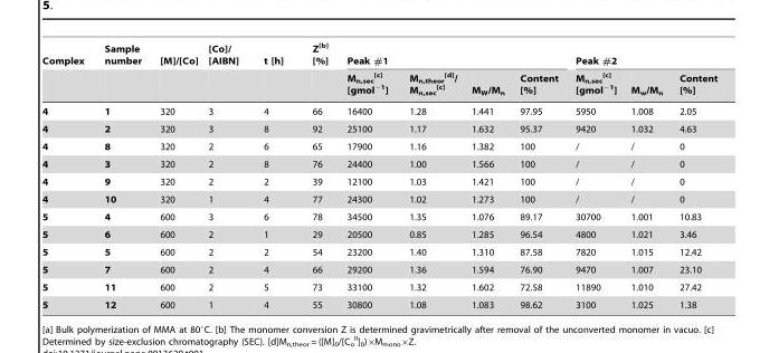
<table><thead><tr><td rowspan="2">Complex</td><td rowspan="2">Sample number</td><td rowspan="2">[M]/[Co]</td><td rowspan="2">[Co]/ [AIBN]</td><td rowspan="2">t [h]</td><td rowspan="2">Z<sup>[b]</sup> [%]</td><td colspan="4">Peak #1</td><td colspan="3">Peak #2</td></tr><tr><td>M<sub>n,sec</sub> <sup>[c]</sup> [gmol<sup>−1</sup>]</td><td>M<sub>n,theor</sub> <sup>[d]</sup>/ M<sub>n,sec</sub> <sup>[c]</sup></td><td>M<sub>W</sub>/M<sub>n</sub></td><td>Content [%]</td><td>M<sub>n,sec</sub> <sup>[c]</sup> [gmol<sup>−1</sup>]</td><td>M<sub>w</sub>/M<sub>n</sub></td><td>Content [%]</td></tr></thead><tbody><tr><td>4</td><td>1</td><td>320</td><td>3</td><td>4</td><td>66</td><td>16400</td><td>1.28</td><td>1.441</td><td>97.95</td><td>5950</td><td>1.008</td><td>2.05</td></tr><tr><td>4</td><td>2</td><td>320</td><td>3</td><td>8</td><td>92</td><td>25100</td><td>1.17</td><td>1.632</td><td>95.37</td><td>9420</td><td>1.032</td><td>4.63</td></tr><tr><td>4</td><td>8</td><td>320</td><td>2</td><td>6</td><td>65</td><td>17900</td><td>1.16</td><td>1.382</td><td>100</td><td>/</td><td>/</td><td>0</td></tr><tr><td>4</td><td>3</td><td>320</td><td>2</td><td>8</td><td>76</td><td>24400</td><td>1.00</td><td>1.566</td><td>100</td><td>/</td><td>/</td><td>0</td></tr><tr><td>4</td><td>9</td><td>320</td><td>2</td><td>2</td><td>39</td><td>12100</td><td>1.03</td><td>1.421</td><td>100</td><td>/</td><td>/</td><td>0</td></tr><tr><td>4</td><td>10</td><td>320</td><td>1</td><td>4</td><td>77</td><td>24300</td><td>1.02</td><td>1.273</td><td>100</td><td>/</td><td>/</td><td>0</td></tr><tr><td>5</td><td>4</td><td>600</td><td>3</td><td>6</td><td>78</td><td>34500</td><td>1.35</td><td>1.076</td><td>89.17</td><td>30700</td><td>1.001</td><td>10.83</td></tr><tr><td>5</td><td>6</td><td>600</td><td>2</td><td>1</td><td>29</td><td>20500</td><td>0.85</td><td>1.285</td><td>96.54</td><td>4800</td><td>1.021</td><td>3.46</td></tr><tr><td>5</td><td>5</td><td>600</td><td>2</td><td>2</td><td>54</td><td>23200</td><td>1.40</td><td>1.310</td><td>87.58</td><td>7820</td><td>1.015</td><td>12.42</td></tr><tr><td>5</td><td>7</td><td>600</td><td>2</td><td>4</td><td>66</td><td>29200</td><td>1.36</td><td>1.594</td><td>76.90</td><td>9470</td><td>1.007</td><td>23.10</td></tr><tr><td>5</td><td>11</td><td>600</td><td>2</td><td>5</td><td>73</td><td>33100</td><td>1.32</td><td>1.602</td><td>72.58</td><td>11890</td><td>1.010</td><td>27.42</td></tr><tr><td>5</td><td>12</td><td>600</td><td>1</td><td>4</td><td>55</td><td>30800</td><td>1.08</td><td>1.083</td><td>98.62</td><td>3100</td><td>1.025</td><td>1.38</td></tr></tbody></table>